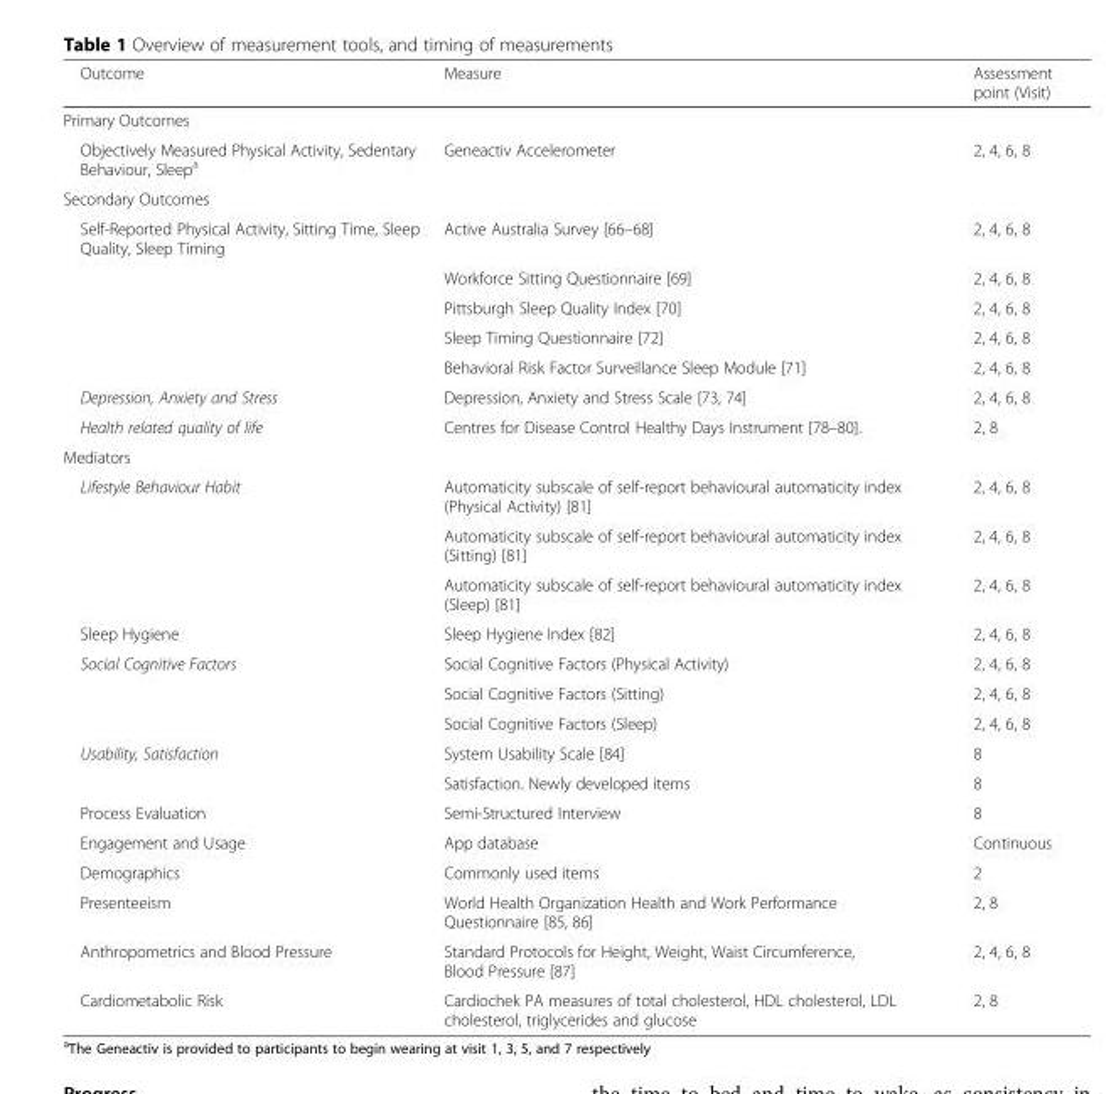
<table><thead><tr><td>Outcome</td><td>Measure</td><td>Assessment point (Visit)</td></tr></thead><tbody><tr><td colspan="3">Primary Outcomes</td></tr><tr><td>Objectively Measured Physical Activity, Sedentary Behaviour, Sleep<sup>a</sup></td><td>Geneactiv Accelerometer</td><td>2, 4, 6, 8</td></tr><tr><td colspan="3">Secondary Outcomes</td></tr><tr><td rowspan="5">Self-Reported Physical Activity, Sitting Time, Sleep Quality, Sleep Timing</td><td>Active Australia Survey [66–68]</td><td>2, 4, 6, 8</td></tr><tr><td>Workforce Sitting Questionnaire [69]</td><td>2, 4, 6, 8</td></tr><tr><td>Pittsburgh Sleep Quality Index [70]</td><td>2, 4, 6, 8</td></tr><tr><td>Sleep Timing Questionnaire [72]</td><td>2, 4, 6, 8</td></tr><tr><td>Behavioral Risk Factor Surveillance Sleep Module [71]</td><td>2, 4, 6, 8</td></tr><tr><td>Depression, Anxiety and Stress</td><td>Depression, Anxiety and Stress Scale [73, 74]</td><td>2, 4, 6, 8</td></tr><tr><td>Health related quality of life</td><td>Centres for Disease Control Healthy Days Instrument [78–80].</td><td>2, 8</td></tr><tr><td colspan="3">Mediators</td></tr><tr><td rowspan="3">Lifestyle Behaviour Habit</td><td>Automaticity subscale of self-report behavioural automaticity index (Physical Activity) [81]</td><td>2, 4, 6, 8</td></tr><tr><td>Automaticity subscale of self-report behavioural automaticity index (Sitting) [81]</td><td>2, 4, 6, 8</td></tr><tr><td>Automaticity subscale of self-report behavioural automaticity index (Sleep) [81]</td><td>2, 4, 6, 8</td></tr><tr><td>Sleep Hygiene</td><td>Sleep Hygiene Index [82]</td><td>2, 4, 6, 8</td></tr><tr><td rowspan="3">Social Cognitive Factors</td><td>Social Cognitive Factors (Physical Activity)</td><td>2, 4, 6, 8</td></tr><tr><td>Social Cognitive Factors (Sitting)</td><td>2, 4, 6, 8</td></tr><tr><td>Social Cognitive Factors (Sleep)</td><td>2, 4, 6, 8</td></tr><tr><td rowspan="2">Usability, Satisfaction</td><td>System Usability Scale [84]</td><td>8</td></tr><tr><td>Satisfaction. Newly developed items</td><td>8</td></tr><tr><td>Process Evaluation</td><td>Semi-Structured Interview</td><td>8</td></tr><tr><td>Engagement and Usage</td><td>App database</td><td>Continuous</td></tr><tr><td>Demographics</td><td>Commonly used items</td><td>2</td></tr><tr><td>Presenteeism</td><td>World Health Organization Health and Work Performance Questionnaire [85, 86]</td><td>2, 8</td></tr><tr><td>Anthropometrics and Blood Pressure</td><td>Standard Protocols for Height, Weight, Waist Circumference, Blood Pressure [87]</td><td>2, 4, 6, 8</td></tr><tr><td>Cardiometabolic Risk</td><td>Cardiochek PA measures of total cholesterol, HDL cholesterol, LDL cholesterol, triglycerides and glucose</td><td>2, 8</td></tr></tbody></table>